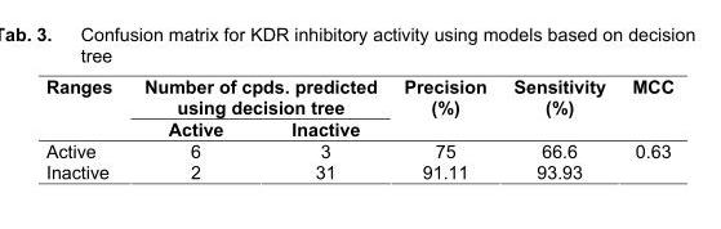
<table><thead><tr><td rowspan="2">tree Ranges</td><td colspan="2">Number of cpds. predicted using decision tree</td><td rowspan="2">Precision (%)</td><td rowspan="2">Sensitivity (%)</td><td rowspan="2">MCC</td></tr><tr><td>Active</td><td>Inactive</td></tr></thead><tbody><tr><td>Active</td><td>6</td><td>3</td><td>75</td><td>66.6</td><td>0.63</td></tr><tr><td>Inactive</td><td>2</td><td>31</td><td>91.11</td><td>93.93</td><td></td></tr></tbody></table>